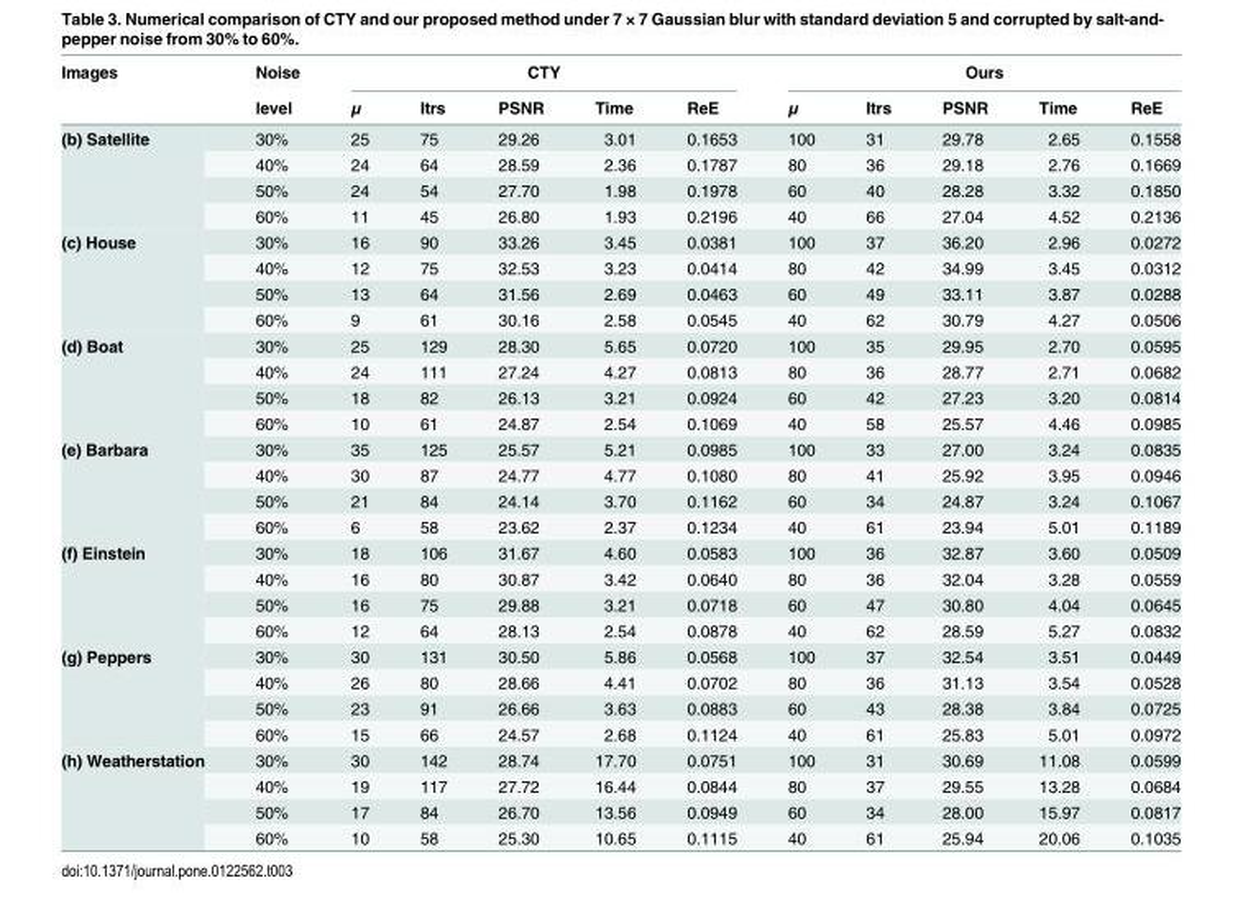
<table><thead><tr><td rowspan="2">Images</td><td rowspan="2">Noise level</td><td colspan="5">CTY</td><td colspan="5">Ours</td></tr><tr><td>μ</td><td>Itrs</td><td>PSNR</td><td>Time</td><td>ReE</td><td>μ</td><td>Itrs</td><td>PSNR</td><td>Time</td><td>ReE</td></tr></thead><tbody><tr><td rowspan="4">(b) Satellite</td><td>30%</td><td>25</td><td>75</td><td>29.26</td><td>3.01</td><td>0.1653</td><td>100</td><td>31</td><td>29.78</td><td>2.65</td><td>0.1558</td></tr><tr><td>40%</td><td>24</td><td>64</td><td>28.59</td><td>2.36</td><td>0.1787</td><td>80</td><td>36</td><td>29.18</td><td>2.76</td><td>0.1669</td></tr><tr><td>50%</td><td>24</td><td>54</td><td>27.70</td><td>1.98</td><td>0.1978</td><td>60</td><td>40</td><td>28.28</td><td>3.32</td><td>0.1850</td></tr><tr><td>60%</td><td>11</td><td>45</td><td>26.80</td><td>1.93</td><td>0.2196</td><td>40</td><td>66</td><td>27.04</td><td>4.52</td><td>0.2136</td></tr><tr><td rowspan="4">(c) House</td><td>30%</td><td>16</td><td>90</td><td>33.26</td><td>3.45</td><td>0.0381</td><td>100</td><td>37</td><td>36.20</td><td>2.96</td><td>0.0272</td></tr><tr><td>40%</td><td>12</td><td>75</td><td>32.53</td><td>3.23</td><td>0.0414</td><td>80</td><td>42</td><td>34.99</td><td>3.45</td><td>0.0312</td></tr><tr><td>50%</td><td>13</td><td>64</td><td>31.56</td><td>2.69</td><td>0.0463</td><td>60</td><td>49</td><td>33.11</td><td>3.87</td><td>0.0288</td></tr><tr><td>60%</td><td>9</td><td>61</td><td>30.16</td><td>2.58</td><td>0.0545</td><td>40</td><td>62</td><td>30.79</td><td>4.27</td><td>0.0506</td></tr><tr><td rowspan="4">(d) Boat</td><td>30%</td><td>25</td><td>129</td><td>28.30</td><td>5.65</td><td>0.0720</td><td>100</td><td>35</td><td>29.95</td><td>2.70</td><td>0.0595</td></tr><tr><td>40%</td><td>24</td><td>111</td><td>27.24</td><td>4.27</td><td>0.0813</td><td>80</td><td>36</td><td>28.77</td><td>2.71</td><td>0.0682</td></tr><tr><td>50%</td><td>18</td><td>82</td><td>26.13</td><td>3.21</td><td>0.0924</td><td>60</td><td>42</td><td>27.23</td><td>3.20</td><td>0.0814</td></tr><tr><td>60%</td><td>10</td><td>61</td><td>24.87</td><td>2.54</td><td>0.1069</td><td>40</td><td>58</td><td>25.57</td><td>4.46</td><td>0.0985</td></tr><tr><td rowspan="4">(e) Barbara</td><td>30%</td><td>35</td><td>125</td><td>25.57</td><td>5.21</td><td>0.0985</td><td>100</td><td>33</td><td>27.00</td><td>3.24</td><td>0.0835</td></tr><tr><td>40%</td><td>30</td><td>87</td><td>24.77</td><td>4.77</td><td>0.1080</td><td>80</td><td>41</td><td>25.92</td><td>3.95</td><td>0.0946</td></tr><tr><td>50%</td><td>21</td><td>84</td><td>24.14</td><td>3.70</td><td>0.1162</td><td>60</td><td>34</td><td>24.87</td><td>3.24</td><td>0.1067</td></tr><tr><td>60%</td><td>6</td><td>58</td><td>23.62</td><td>2.37</td><td>0.1234</td><td>40</td><td>61</td><td>23.94</td><td>5.01</td><td>0.1189</td></tr><tr><td rowspan="4">(f) Einstein</td><td>30%</td><td>18</td><td>106</td><td>31.67</td><td>4.60</td><td>0.0583</td><td>100</td><td>36</td><td>32.87</td><td>3.60</td><td>0.0509</td></tr><tr><td>40%</td><td>16</td><td>80</td><td>30.87</td><td>3.42</td><td>0.0640</td><td>80</td><td>36</td><td>32.04</td><td>3.28</td><td>0.0559</td></tr><tr><td>50%</td><td>16</td><td>75</td><td>29.88</td><td>3.21</td><td>0.0718</td><td>60</td><td>47</td><td>30.80</td><td>4.04</td><td>0.0645</td></tr><tr><td>60%</td><td>12</td><td>64</td><td>28.13</td><td>2.54</td><td>0.0878</td><td>40</td><td>62</td><td>28.59</td><td>5.27</td><td>0.0832</td></tr><tr><td rowspan="4">(g) Peppers</td><td>30%</td><td>30</td><td>131</td><td>30.50</td><td>5.86</td><td>0.0568</td><td>100</td><td>37</td><td>32.54</td><td>3.51</td><td>0.0449</td></tr><tr><td>40%</td><td>26</td><td>80</td><td>28.66</td><td>4.41</td><td>0.0702</td><td>80</td><td>36</td><td>31.13</td><td>3.54</td><td>0.0528</td></tr><tr><td>50%</td><td>23</td><td>91</td><td>26.66</td><td>3.63</td><td>0.0883</td><td>60</td><td>43</td><td>28.38</td><td>3.84</td><td>0.0725</td></tr><tr><td>60%</td><td>15</td><td>66</td><td>24.57</td><td>2.68</td><td>0.1124</td><td>40</td><td>61</td><td>25.83</td><td>5.01</td><td>0.0972</td></tr><tr><td rowspan="4">(h) Weatherstation</td><td>30%</td><td>30</td><td>142</td><td>28.74</td><td>17.70</td><td>0.0751</td><td>100</td><td>31</td><td>30.69</td><td>11.08</td><td>0.0599</td></tr><tr><td>40%</td><td>19</td><td>117</td><td>27.72</td><td>16.44</td><td>0.0844</td><td>80</td><td>37</td><td>29.55</td><td>13.28</td><td>0.0684</td></tr><tr><td>50%</td><td>17</td><td>84</td><td>26.70</td><td>13.56</td><td>0.0949</td><td>60</td><td>34</td><td>28.00</td><td>15.97</td><td>0.0817</td></tr><tr><td>60%</td><td>10</td><td>58</td><td>25.30</td><td>10.65</td><td>0.1115</td><td>40</td><td>61</td><td>25.94</td><td>20.06</td><td>0.1035</td></tr></tbody></table>